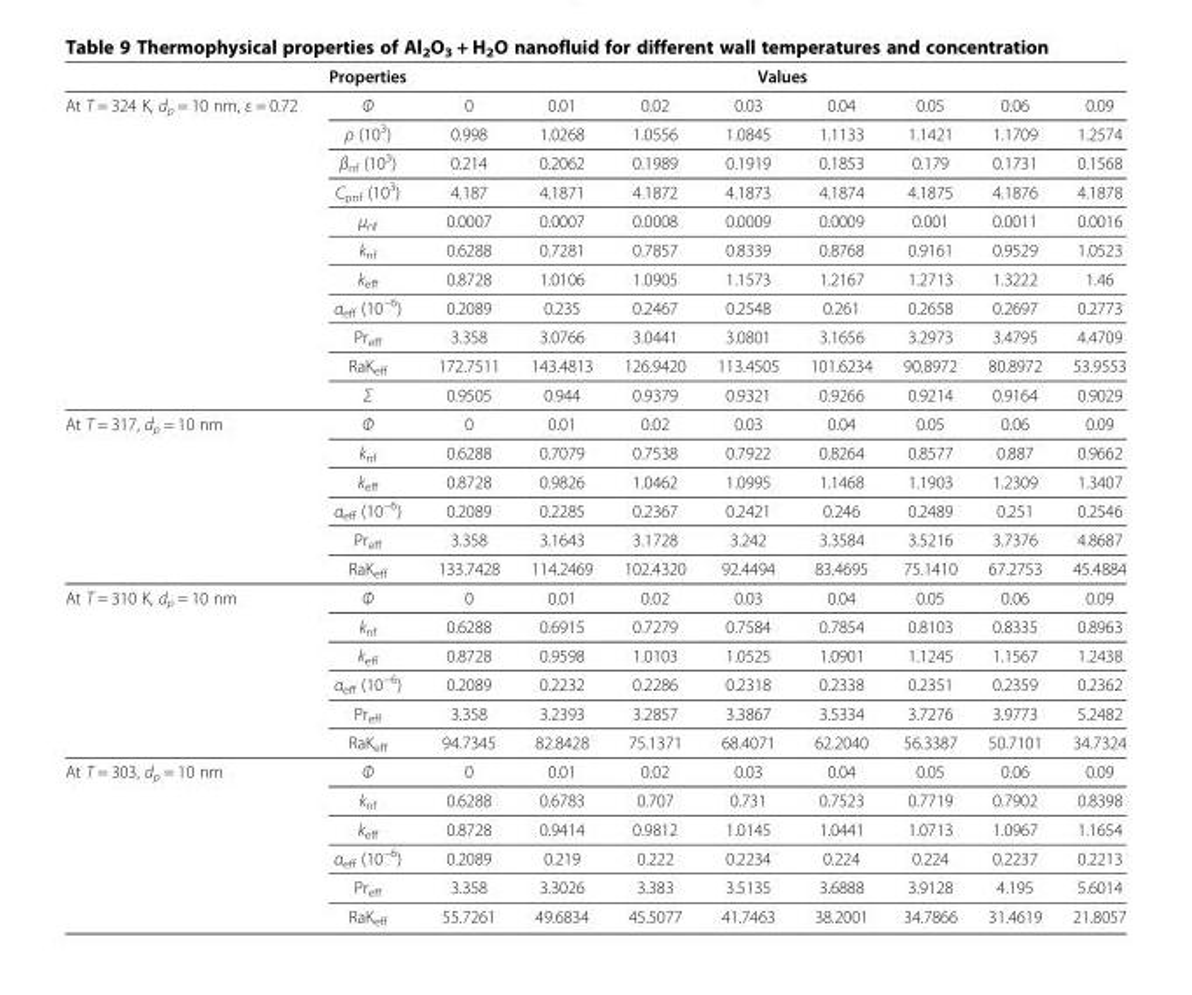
<table><thead><tr><td rowspan="2">At T = 324 K, d<sub>p</sub> = 10 nm, ε = 0.72</td><td rowspan="2">Properties Φ</td><td colspan="8">Values</td></tr><tr><td>0</td><td>0.01</td><td>0.02</td><td>0.03</td><td>0.04</td><td>0.05</td><td>0.06</td><td>0.09</td></tr></thead><tbody><tr><td></td><td>ρ (10<sup>3</sup>)</td><td>0.998</td><td>1.0268</td><td>1.0556</td><td>1.0845</td><td>1.1133</td><td>1.1421</td><td>1.1709</td><td>1.2574</td></tr><tr><td></td><td>β<sub>nf</sub> (10<sup>3</sup>)</td><td>0.214</td><td>0.2062</td><td>0.1989</td><td>0.1919</td><td>0.1853</td><td>0.179</td><td>0.1731</td><td>0.1568</td></tr><tr><td></td><td>C<sub>pnf</sub> (10<sup>3</sup>)</td><td>4.187</td><td>4.1871</td><td>4.1872</td><td>4.1873</td><td>4.1874</td><td>4.1875</td><td>4.1876</td><td>4.1878</td></tr><tr><td></td><td>μ<sub>nf</sub></td><td>0.0007</td><td>0.0007</td><td>0.0008</td><td>0.0009</td><td>0.0009</td><td>0.001</td><td>0.0011</td><td>0.0016</td></tr><tr><td></td><td>k<sub>nf</sub></td><td>0.6288</td><td>0.7281</td><td>0.7857</td><td>0.8339</td><td>0.8768</td><td>0.9161</td><td>0.9529</td><td>1.0523</td></tr><tr><td></td><td>k<sub>eff</sub></td><td>0.8728</td><td>1.0106</td><td>1.0905</td><td>1.1573</td><td>1.2167</td><td>1.2713</td><td>1.3222</td><td>1.46</td></tr><tr><td></td><td>α<sub>eff</sub> (10<sup>−6</sup>)</td><td>0.2089</td><td>0.235</td><td>0.2467</td><td>0.2548</td><td>0.261</td><td>0.2658</td><td>0.2697</td><td>0.2773</td></tr><tr><td></td><td>Pr<sub>eff</sub></td><td>3.358</td><td>3.0766</td><td>3.0441</td><td>3.0801</td><td>3.1656</td><td>3.2973</td><td>3.4795</td><td>4.4709</td></tr><tr><td></td><td>RaK<sub>eff</sub></td><td>172.7511</td><td>143.4813</td><td>126.9420</td><td>113.4505</td><td>101.6234</td><td>90.8972</td><td>80.8972</td><td>53.9553</td></tr><tr><td></td><td>Σ</td><td>0.9505</td><td>0.944</td><td>0.9379</td><td>0.9321</td><td>0.9266</td><td>0.9214</td><td>0.9164</td><td>0.9029</td></tr><tr><td rowspan="6">At T = 317, d<sub>p</sub> = 10 nm</td><td>Φ</td><td>0</td><td>0.01</td><td>0.02</td><td>0.03</td><td>0.04</td><td>0.05</td><td>0.06</td><td>0.09</td></tr><tr><td>k<sub>nf</sub></td><td>0.6288</td><td>0.7079</td><td>0.7538</td><td>0.7922</td><td>0.8264</td><td>0.8577</td><td>0.887</td><td>0.9662</td></tr><tr><td>k<sub>eff</sub></td><td>0.8728</td><td>0.9826</td><td>1.0462</td><td>1.0995</td><td>1.1468</td><td>1.1903</td><td>1.2309</td><td>1.3407</td></tr><tr><td>α<sub>eff</sub> (10<sup>−6</sup>)</td><td>0.2089</td><td>0.2285</td><td>0.2367</td><td>0.2421</td><td>0.246</td><td>0.2489</td><td>0.251</td><td>0.2546</td></tr><tr><td>Pr<sub>eff</sub></td><td>3.358</td><td>3.1643</td><td>3.1728</td><td>3.242</td><td>3.3584</td><td>3.5216</td><td>3.7376</td><td>4.8687</td></tr><tr><td>RaK<sub>eff</sub></td><td>133.7428</td><td>114.2469</td><td>102.4320</td><td>92.4494</td><td>83.4695</td><td>75.1410</td><td>67.2753</td><td>45.4884</td></tr><tr><td rowspan="6">At T = 310 K, d<sub>p</sub> = 10 nm</td><td>Φ</td><td>0</td><td>0.01</td><td>0.02</td><td>0.03</td><td>0.04</td><td>0.05</td><td>0.06</td><td>0.09</td></tr><tr><td>k<sub>nf</sub></td><td>0.6288</td><td>0.6915</td><td>0.7279</td><td>0.7584</td><td>0.7854</td><td>0.8103</td><td>0.8335</td><td>0.8963</td></tr><tr><td>k<sub>eff</sub></td><td>0.8728</td><td>0.9598</td><td>1.0103</td><td>1.0525</td><td>1.0901</td><td>1.1245</td><td>1.1567</td><td>1.2438</td></tr><tr><td>α<sub>eff</sub> (10<sup>−6</sup>)</td><td>0.2089</td><td>0.2232</td><td>0.2286</td><td>0.2318</td><td>0.2338</td><td>0.2351</td><td>0.2359</td><td>0.2362</td></tr><tr><td>Pr<sub>eff</sub></td><td>3.358</td><td>3.2393</td><td>3.2857</td><td>3.3867</td><td>3.5334</td><td>3.7276</td><td>3.9773</td><td>5.2482</td></tr><tr><td>RaK<sub>eff</sub></td><td>94.7345</td><td>82.8428</td><td>75.1371</td><td>68.4071</td><td>62.2040</td><td>56.3387</td><td>50.7101</td><td>34.7324</td></tr><tr><td rowspan="6">At T = 303, d<sub>p</sub> = 10 nm</td><td>Φ</td><td>0</td><td>0.01</td><td>0.02</td><td>0.03</td><td>0.04</td><td>0.05</td><td>0.06</td><td>0.09</td></tr><tr><td>k<sub>nf</sub></td><td>0.6288</td><td>0.6783</td><td>0.707</td><td>0.731</td><td>0.7523</td><td>0.7719</td><td>0.7902</td><td>0.8398</td></tr><tr><td>k<sub>eff</sub></td><td>0.8728</td><td>0.9414</td><td>0.9812</td><td>1.0145</td><td>1.0441</td><td>1.0713</td><td>1.0967</td><td>1.1654</td></tr><tr><td>α<sub>eff</sub> (10<sup>−6</sup>)</td><td>0.2089</td><td>0.219</td><td>0.222</td><td>0.2234</td><td>0.224</td><td>0.224</td><td>0.2237</td><td>0.2213</td></tr><tr><td>Pr<sub>eff</sub></td><td>3.358</td><td>3.3026</td><td>3.383</td><td>3.5135</td><td>3.6888</td><td>3.9128</td><td>4.195</td><td>5.6014</td></tr><tr><td>RaK<sub>eff</sub></td><td>55.7261</td><td>49.6834</td><td>45.5077</td><td>41.7463</td><td>38.2001</td><td>34.7866</td><td>31.4619</td><td>21.8057</td></tr></tbody></table>